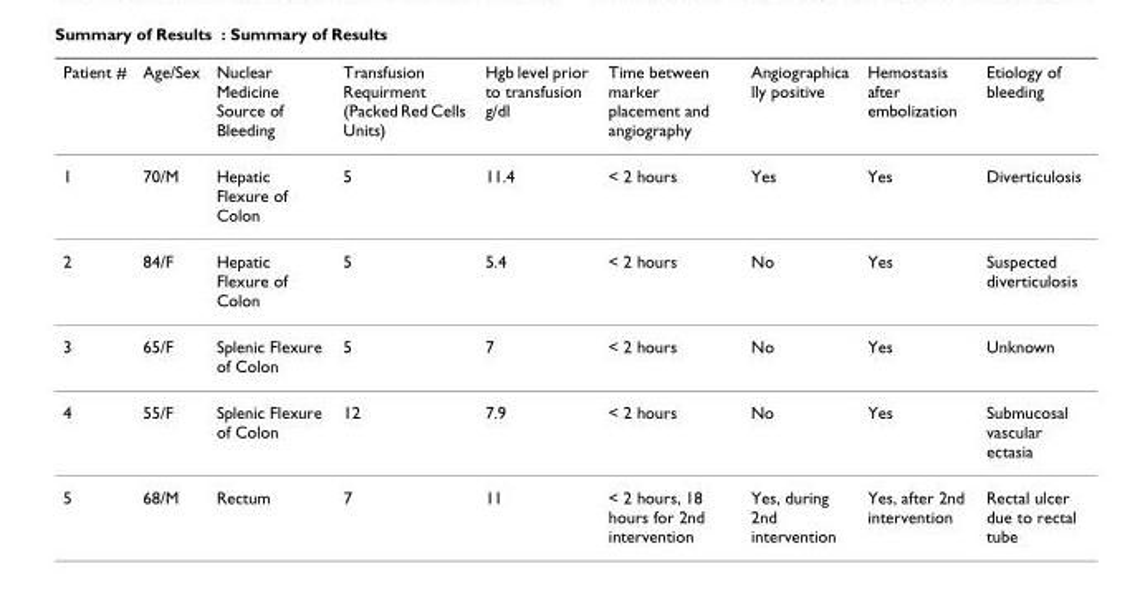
<table><thead><tr><td>Patient #</td><td>Age/Sex</td><td>Nuclear Medicine Source of Bleeding</td><td>Transfusion Requirment (Packed Red Cells Units)</td><td>Hgb level prior to transfusion g/dl</td><td>Time between marker placement and angiography</td><td>Angiographica lly positive</td><td>Hemostasis after embolization</td><td>Etiology of bleeding</td></tr></thead><tbody><tr><td>1</td><td>70/M</td><td>Hepatic Flexure of Colon</td><td>5</td><td>11.4</td><td>&lt; 2 hours</td><td>Yes</td><td>Yes</td><td>Diverticulosis</td></tr><tr><td>2</td><td>84/F</td><td>Hepatic Flexure of Colon</td><td>5</td><td>5.4</td><td>&lt; 2 hours</td><td>No</td><td>Yes</td><td>Suspected diverticulosis</td></tr><tr><td>3</td><td>65/F</td><td>Splenic Flexure of Colon</td><td>5</td><td>7</td><td>&lt; 2 hours</td><td>No</td><td>Yes</td><td>Unknown</td></tr><tr><td>4</td><td>55/F</td><td>Splenic Flexure of Colon</td><td>12</td><td>7.9</td><td>&lt; 2 hours</td><td>No</td><td>Yes</td><td>Submucosal vascular ectasia</td></tr><tr><td>5</td><td>68/M</td><td>Rectum</td><td>7</td><td>11</td><td>&lt; 2 hours, 18 hours for 2nd intervention</td><td>Yes, during 2nd intervention</td><td>Yes, after 2nd intervention</td><td>Rectal ulcer due to rectal tube</td></tr></tbody></table>